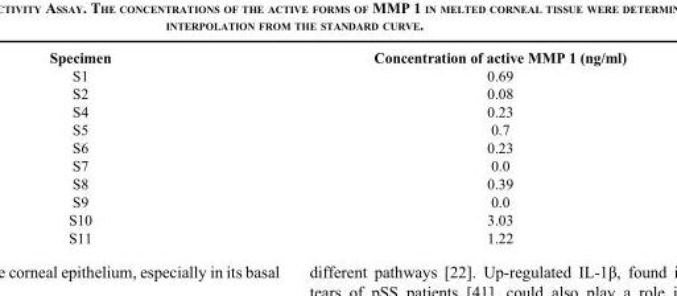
<table><thead><tr><td>Specimen</td><td>Concentration of active MMP 1 (ng/ml)</td></tr></thead><tbody><tr><td>S1</td><td>0.69</td></tr><tr><td>S2</td><td>0.08</td></tr><tr><td>S4</td><td>0.23</td></tr><tr><td>S5</td><td>0.7</td></tr><tr><td>S6</td><td>0.23</td></tr><tr><td>S7</td><td>0.0</td></tr><tr><td>S8</td><td>0.39</td></tr><tr><td>S9</td><td>0.0</td></tr><tr><td>S10</td><td>3.03</td></tr><tr><td>S11</td><td>1.22</td></tr></tbody></table>